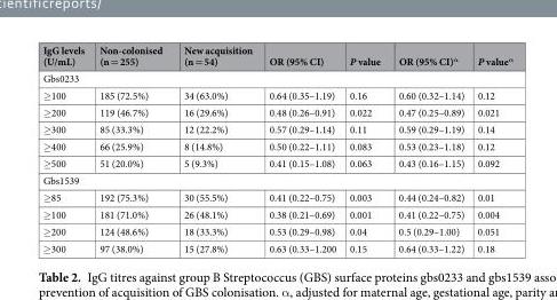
<table><thead><tr><td>IgG levels (U/mL)</td><td>Non-colonised (n = 255)</td><td>New acquisition (n = 54)</td><td>OR (95% CI)</td><td>P value</td><td>OR (95% CI)<sup>α</sup></td><td>P value<sup>α</sup></td></tr></thead><tbody><tr><td colspan="7">Gbs0233</td></tr><tr><td>≥100</td><td>185 (72.5%)</td><td>34 (63.0%)</td><td>0.64 (0.35–1.19)</td><td>0.16</td><td>0.60 (0.32–1.14)</td><td>0.12</td></tr><tr><td>≥200</td><td>119 (46.7%)</td><td>16 (29.6%)</td><td>0.48 (0.26–0.91)</td><td>0.022</td><td>0.47 (0.25–0.89)</td><td>0.021</td></tr><tr><td>≥300</td><td>85 (33.3%)</td><td>12 (22.2%)</td><td>0.57 (0.29–1.14)</td><td>0.11</td><td>0.59 (0.29–1.19)</td><td>0.14</td></tr><tr><td>≥400</td><td>66 (25.9%)</td><td>8 (14.8%)</td><td>0.50 (0.22–1.11)</td><td>0.083</td><td>0.53 (0.23–1.18)</td><td>0.12</td></tr><tr><td>≥500</td><td>51 (20.0%)</td><td>5 (9.3%)</td><td>0.41 (0.15–1.08)</td><td>0.063</td><td>0.43 (0.16–1.15)</td><td>0.092</td></tr><tr><td colspan="7">Gbs1539</td></tr><tr><td>≥85</td><td>192 (75.3%)</td><td>30 (55.5%)</td><td>0.41 (0.22–0.75)</td><td>0.003</td><td>0.44 (0.24–0.82)</td><td>0.01</td></tr><tr><td>≥100</td><td>181 (71.0%)</td><td>26 (48.1%)</td><td>0.38 (0.21–0.69)</td><td>0.001</td><td>0.41 (0.22–0.75)</td><td>0.004</td></tr><tr><td>≥200</td><td>124 (48.6%)</td><td>18 (33.3%)</td><td>0.53 (0.29–0.98)</td><td>0.04</td><td>0.5 (0.29–1.00)</td><td>0.051</td></tr><tr><td>≥300</td><td>97 (38.0%)</td><td>15 (27.8%)</td><td>0.63 (0.33–1.200</td><td>0.15</td><td>0.64 (0.33–1.22)</td><td>0.18</td></tr></tbody></table>